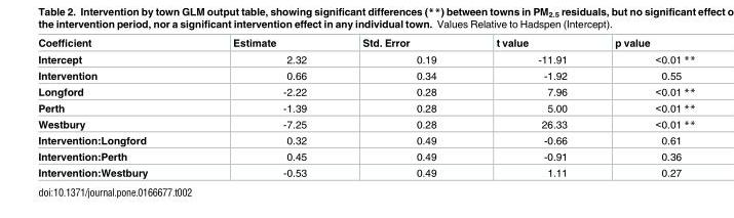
<table><thead><tr><td>Coefficient</td><td>Estimate</td><td>Std. Error</td><td>t value</td><td>p value</td></tr></thead><tbody><tr><td>Intercept</td><td>2.32</td><td>0.19</td><td>-11.91</td><td>&lt;0.01 **</td></tr><tr><td>Intervention</td><td>0.66</td><td>0.34</td><td>-1.92</td><td>0.55</td></tr><tr><td>Longford</td><td>-2.22</td><td>0.28</td><td>7.96</td><td>&lt;0.01 **</td></tr><tr><td>Perth</td><td>-1.39</td><td>0.28</td><td>5.00</td><td>&lt;0.01 **</td></tr><tr><td>Westbury</td><td>-7.25</td><td>0.28</td><td>26.33</td><td>&lt;0.01 **</td></tr><tr><td>Intervention:Longford</td><td>0.32</td><td>0.49</td><td>-0.66</td><td>0.61</td></tr><tr><td>Intervention:Perth</td><td>0.45</td><td>0.49</td><td>-0.91</td><td>0.36</td></tr><tr><td>Intervention:Westbury</td><td>-0.53</td><td>0.49</td><td>1.11</td><td>0.27</td></tr></tbody></table>